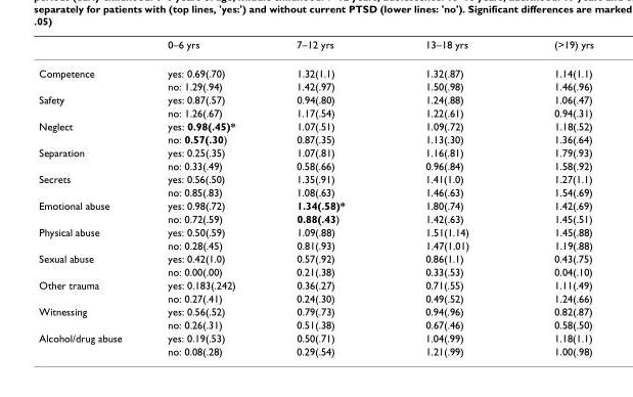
<table><thead><tr><td></td><td>0–6 yrs</td><td>7–12 yrs</td><td>13–18 yrs</td><td>(&gt;19) yrs</td></tr></thead><tbody><tr><td rowspan="2">Competence</td><td>yes: 0.69(.70)</td><td>1.32(1.1)</td><td>1.32(.87)</td><td>1.14(1.1)</td></tr><tr><td>no: 1.29(.94)</td><td>1.42(.97)</td><td>1.50(.98)</td><td>1.46(.96)</td></tr><tr><td rowspan="2">Safety</td><td>yes: 0.87(.57)</td><td>0.94(.80)</td><td>1.24(.88)</td><td>1.06(.47)</td></tr><tr><td>no: 1.26(.67)</td><td>1.17(.54)</td><td>1.22(.61)</td><td>0.94(.31)</td></tr><tr><td rowspan="2">Neglect</td><td>yes: 0.98(.45)*</td><td>1.07(.51)</td><td>1.09(.72)</td><td>1.18(.52)</td></tr><tr><td>no: 0.57(.30)</td><td>0.87(.35)</td><td>1.13(.30)</td><td>1.36(.64)</td></tr><tr><td rowspan="2">Separation</td><td>yes: 0.25(.35)</td><td>1.07(.81)</td><td>1.16(.81)</td><td>1.79(.93)</td></tr><tr><td>no: 0.33(.49)</td><td>0.58(.66)</td><td>0.96(.84)</td><td>1.58(.92)</td></tr><tr><td rowspan="2">Secrets</td><td>yes: 0.56(.50)</td><td>1.35(.91)</td><td>1.41(1.0)</td><td>1.27(1.1)</td></tr><tr><td>no: 0.85(.83)</td><td>1.08(.63)</td><td>1.46(.63)</td><td>1.54(.69)</td></tr><tr><td rowspan="2">Emotional abuse</td><td>yes: 0.98(.72)</td><td>1.34(.58)*</td><td>1.80(.74)</td><td>1.42(.69)</td></tr><tr><td>no: 0.72(.59)</td><td>0.88(.43)</td><td>1.42(.63)</td><td>1.45(.51)</td></tr><tr><td rowspan="2">Physical abuse</td><td>yes: 0.50(.59)</td><td>1.09(.88)</td><td>1.51(1.14)</td><td>1.45(.88)</td></tr><tr><td>no: 0.28(.45)</td><td>0.81(.93)</td><td>1.47(1.01)</td><td>1.19(.88)</td></tr><tr><td rowspan="2">Sexual abuse</td><td>yes: 0.42(1.0)</td><td>0.57(.92)</td><td>0.86(1.1)</td><td>0.43(.75)</td></tr><tr><td>no: 0.00(.00)</td><td>0.21(.38)</td><td>0.33(.53)</td><td>0.04(.10)</td></tr><tr><td rowspan="2">Other trauma</td><td>yes: 0.183(.242)</td><td>0.36(.27)</td><td>0.71(.55)</td><td>1.11(.49)</td></tr><tr><td>no: 0.27(.41)</td><td>0.24(.30)</td><td>0.49(.52)</td><td>1.24(.66)</td></tr><tr><td rowspan="2">Witnessing</td><td>yes: 0.56(.52)</td><td>0.79(.73)</td><td>0.94(.96)</td><td>0.82(.87)</td></tr><tr><td>no: 0.26(.31)</td><td>0.51(.38)</td><td>0.67(.46)</td><td>0.58(.50)</td></tr><tr><td rowspan="2">Alcohol/drug abuse</td><td>yes: 0.19(.53)</td><td>0.50(.71)</td><td>1.04(.99)</td><td>1.18(1.1)</td></tr><tr><td>no: 0.08(.28)</td><td>0.29(.54)</td><td>1.21(.99)</td><td>1.00(.98)</td></tr></tbody></table>